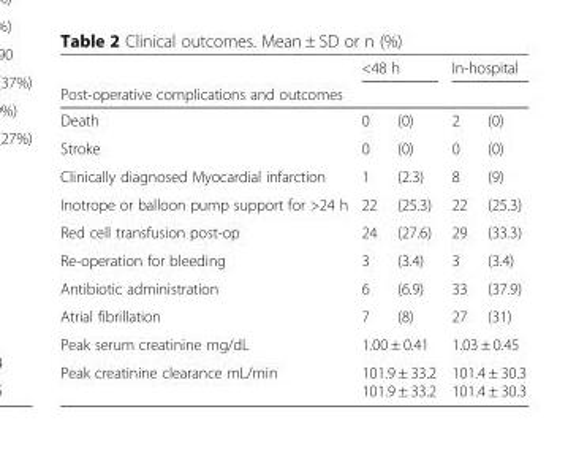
<table><thead><tr><td></td><td colspan="2">&lt;48 h</td><td colspan="2">In-hospital</td></tr><tr><td colspan="5">Post-operative complications and outcomes</td></tr><tr><td>Death</td><td>0</td><td>(0)</td><td>2</td><td>(0)</td></tr></thead><tbody><tr><td>Stroke</td><td>0</td><td>(0)</td><td>0</td><td>(0)</td></tr><tr><td>Clinically diagnosed Myocardial infarction</td><td>1</td><td>(2.3)</td><td>8</td><td>(9)</td></tr><tr><td>Inotrope or balloon pump support for &gt;24 h</td><td>22</td><td>(25.3)</td><td>22</td><td>(25.3)</td></tr><tr><td>Red cell transfusion post-op</td><td>24</td><td>(27.6)</td><td>29</td><td>(33.3)</td></tr><tr><td>Re-operation for bleeding</td><td>3</td><td>(3.4)</td><td>3</td><td>(3.4)</td></tr><tr><td>Antibiotic administration</td><td>6</td><td>(6.9)</td><td>33</td><td>(37.9)</td></tr><tr><td>Atrial fibrillation</td><td>7</td><td>(8)</td><td>27</td><td>(31)</td></tr><tr><td>Peak serum creatinine mg/dL</td><td colspan="2">1.00 ± 0.41</td><td colspan="2">1.03 ± 0.45</td></tr><tr><td>Peak creatinine clearance mL/min</td><td colspan="2">101.9 ± 33.2 101.9 ± 33.2</td><td colspan="2">101.4 ± 30.3 101.4 ± 30.3</td></tr></tbody></table>